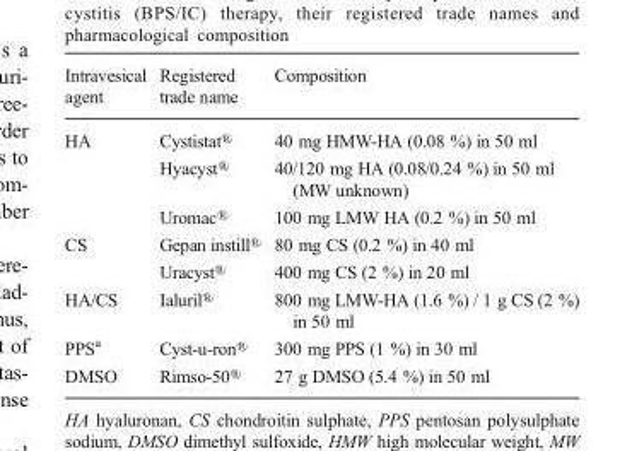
<table><thead><tr><td>Intravesical agent</td><td>Registered trade name</td><td>Composition</td></tr></thead><tbody><tr><td rowspan="3">HA</td><td>Cystistat®</td><td>40 mg HMW-HA (0.08 %) in 50 ml</td></tr><tr><td>Hyacyst®</td><td>40/120 mg HA (0.08/0.24 %) in 50 ml (MW unknown)</td></tr><tr><td>Uromac®</td><td>100 mg LMW HA (0.2 %) in 50 ml</td></tr><tr><td rowspan="2">CS</td><td>Gepan instill®</td><td>80 mg CS (0.2 %) in 40 ml</td></tr><tr><td>Uracyst®</td><td>400 mg CS (2 %) in 20 ml</td></tr><tr><td>HA/CS</td><td>Ialuril®</td><td>800 mg LMW-HA (1.6 %) / 1 g CS (2 %) in 50 ml</td></tr><tr><td>PPS<sup>a</sup></td><td>Cyst-u-ron®</td><td>300 mg PPS (1 %) in 30 ml</td></tr><tr><td>DMSO</td><td>Rimso-50®</td><td>27 g DMSO (5.4 %) in 50 ml</td></tr></tbody></table>